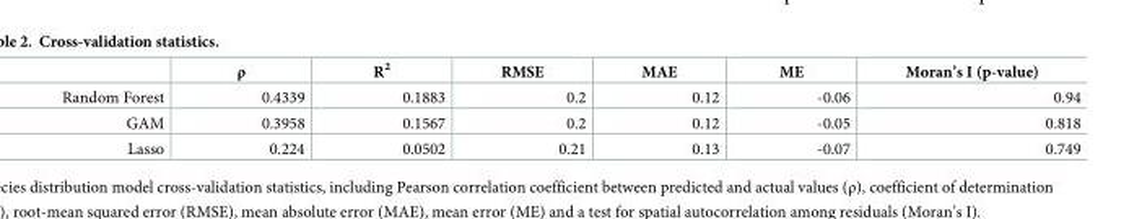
<table><thead><tr><td></td><td>ρ</td><td>R<sup>2</sup></td><td>RMSE</td><td>MAE</td><td>ME</td><td>Moran’s I (p-value)</td></tr></thead><tbody><tr><td>Random Forest</td><td>0.4339</td><td>0.1883</td><td>0.2</td><td>0.12</td><td>-0.06</td><td>0.94</td></tr><tr><td>GAM</td><td>0.3958</td><td>0.1567</td><td>0.2</td><td>0.12</td><td>-0.05</td><td>0.818</td></tr><tr><td>Lasso</td><td>0.224</td><td>0.0502</td><td>0.21</td><td>0.13</td><td>-0.07</td><td>0.749</td></tr></tbody></table>